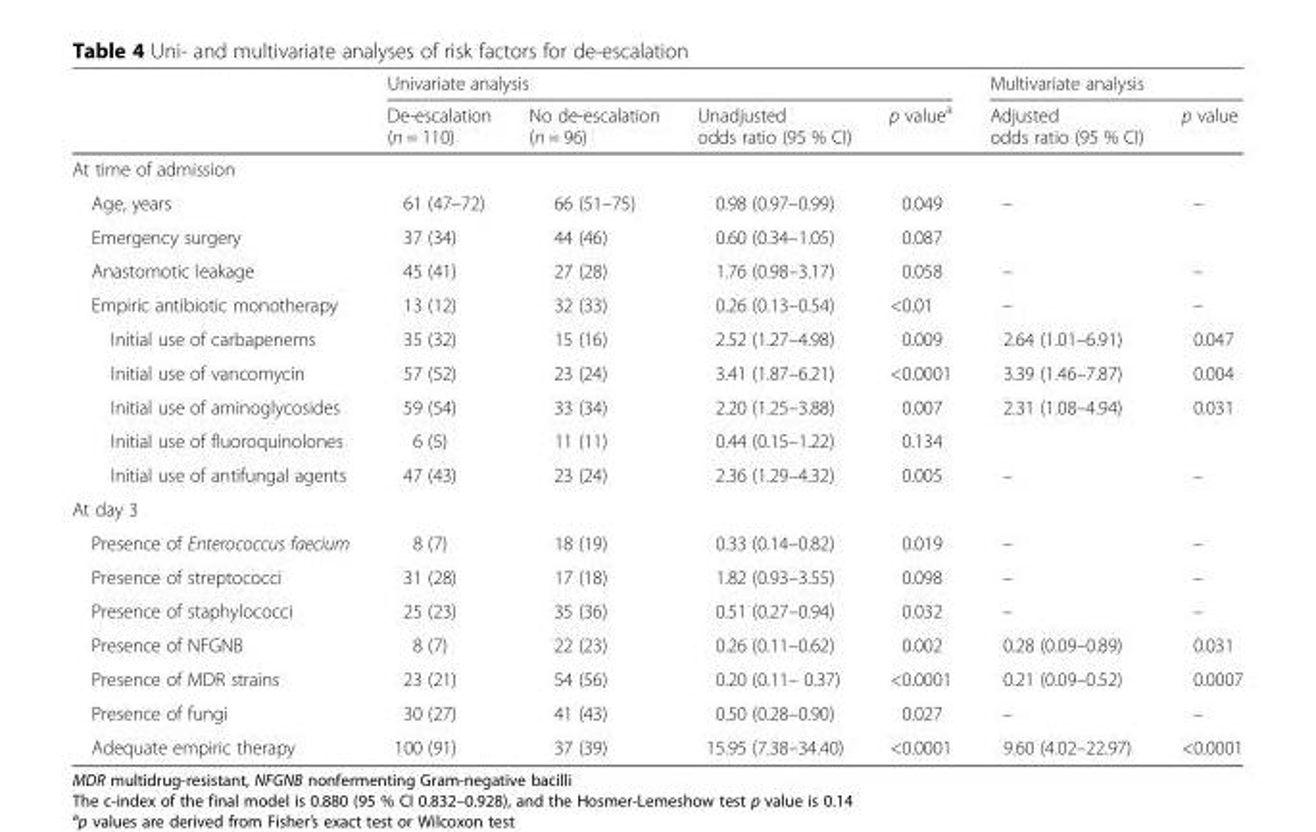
<table><thead><tr><td rowspan="2"></td><td colspan="4">Univariate analysis</td><td colspan="2">Multivariate analysis</td></tr><tr><td>De-escalation (n = 110)</td><td>No de-escalation (n = 96)</td><td>Unadjusted odds ratio (95 % CI)</td><td>p value<sup>a</sup></td><td>Adjusted odds ratio (95 % CI)</td><td>p value</td></tr></thead><tbody><tr><td colspan="7">At time of admission</td></tr><tr><td>Age, years</td><td>61 (47–72)</td><td>66 (51–75)</td><td>0.98 (0.97–0.99)</td><td>0.049</td><td>–</td><td>–</td></tr><tr><td>Emergency surgery</td><td>37 (34)</td><td>44 (46)</td><td>0.60 (0.34–1.05)</td><td>0.087</td><td></td><td></td></tr><tr><td>Anastomotic leakage</td><td>45 (41)</td><td>27 (28)</td><td>1.76 (0.98–3.17)</td><td>0.058</td><td>–</td><td>–</td></tr><tr><td>Empiric antibiotic monotherapy</td><td>13 (12)</td><td>32 (33)</td><td>0.26 (0.13–0.54)</td><td>&lt;0.01</td><td>–</td><td>–</td></tr><tr><td>Initial use of carbapenems</td><td>35 (32)</td><td>15 (16)</td><td>2.52 (1.27–4.98)</td><td>0.009</td><td>2.64 (1.01–6.91)</td><td>0.047</td></tr><tr><td>Initial use of vancomycin</td><td>57 (52)</td><td>23 (24)</td><td>3.41 (1.87–6.21)</td><td>&lt;0.0001</td><td>3.39 (1.46–7.87)</td><td>0.004</td></tr><tr><td>Initial use of aminoglycosides</td><td>59 (54)</td><td>33 (34)</td><td>2.20 (1.25–3.88)</td><td>0.007</td><td>2.31 (1.08–4.94)</td><td>0.031</td></tr><tr><td>Initial use of fluoroquinolones</td><td>6 (5)</td><td>11 (11)</td><td>0.44 (0.15–1.22)</td><td>0.134</td><td></td><td></td></tr><tr><td>Initial use of antifungal agents</td><td>47 (43)</td><td>23 (24)</td><td>2.36 (1.29–4.32)</td><td>0.005</td><td>–</td><td>–</td></tr><tr><td colspan="7">At day 3</td></tr><tr><td>Presence of Enterococcus faecium</td><td>8 (7)</td><td>18 (19)</td><td>0.33 (0.14–0.82)</td><td>0.019</td><td>–</td><td>–</td></tr><tr><td>Presence of streptococci</td><td>31 (28)</td><td>17 (18)</td><td>1.82 (0.93–3.55)</td><td>0.098</td><td>–</td><td>–</td></tr><tr><td>Presence of staphylococci</td><td>25 (23)</td><td>35 (36)</td><td>0.51 (0.27–0.94)</td><td>0.032</td><td>–</td><td>–</td></tr><tr><td>Presence of NFGNB</td><td>8 (7)</td><td>22 (23)</td><td>0.26 (0.11–0.62)</td><td>0.002</td><td>0.28 (0.09–0.89)</td><td>0.031</td></tr><tr><td>Presence of MDR strains</td><td>23 (21)</td><td>54 (56)</td><td>0.20 (0.11– 0.37)</td><td>&lt;0.0001</td><td>0.21 (0.09–0.52)</td><td>0.0007</td></tr><tr><td>Presence of fungi</td><td>30 (27)</td><td>41 (43)</td><td>0.50 (0.28–0.90)</td><td>0.027</td><td>–</td><td>–</td></tr><tr><td>Adequate empiric therapy</td><td>100 (91)</td><td>37 (39)</td><td>15.95 (7.38–34.40)</td><td>&lt;0.0001</td><td>9.60 (4.02–22.97)</td><td>&lt;0.0001</td></tr></tbody></table>